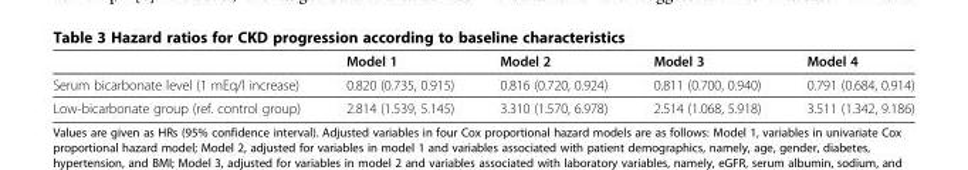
<table><thead><tr><td></td><td>Model 1</td><td>Model 2</td><td>Model 3</td><td>Model 4</td></tr></thead><tbody><tr><td>Serum bicarbonate level (1 mEq/l increase)</td><td>0.820 (0.735, 0.915)</td><td>0.816 (0.720, 0.924)</td><td>0.811 (0.700, 0.940)</td><td>0.791 (0.684, 0.914)</td></tr><tr><td>Low-bicarbonate group (ref. control group)</td><td>2.814 (1.539, 5.145)</td><td>3.310 (1.570, 6.978)</td><td>2.514 (1.068, 5.918)</td><td>3.511 (1.342, 9.186)</td></tr></tbody></table>